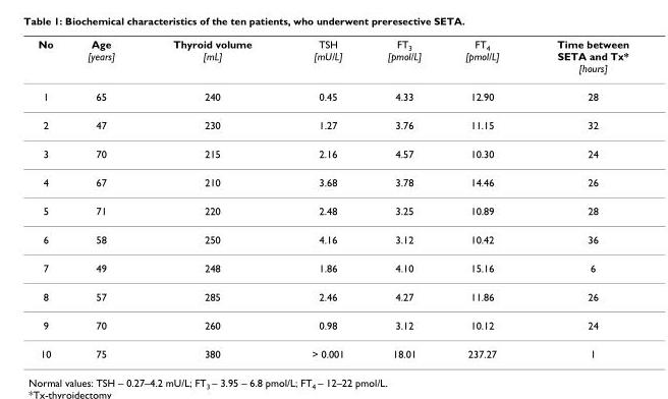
<table><thead><tr><td>No</td><td>Age [years]</td><td>Thyroid volume [mL]</td><td>TSH [mU/L]</td><td>FT<sub>3</sub> [pmol/L]</td><td>FT<sub>4</sub> [pmol/L]</td><td>Time between SETA and Tx* [hours]</td></tr></thead><tbody><tr><td>1</td><td>65</td><td>240</td><td>0.45</td><td>4.33</td><td>12.90</td><td>28</td></tr><tr><td>2</td><td>47</td><td>230</td><td>1.27</td><td>3.76</td><td>11.15</td><td>32</td></tr><tr><td>3</td><td>70</td><td>215</td><td>2.16</td><td>4.57</td><td>10.30</td><td>24</td></tr><tr><td>4</td><td>67</td><td>210</td><td>3.68</td><td>3.78</td><td>14.46</td><td>26</td></tr><tr><td>5</td><td>71</td><td>220</td><td>2.48</td><td>3.25</td><td>10.89</td><td>28</td></tr><tr><td>6</td><td>58</td><td>250</td><td>4.16</td><td>3.12</td><td>10.42</td><td>36</td></tr><tr><td>7</td><td>49</td><td>248</td><td>1.86</td><td>4.10</td><td>15.16</td><td>6</td></tr><tr><td>8</td><td>57</td><td>285</td><td>2.46</td><td>4.27</td><td>11.86</td><td>26</td></tr><tr><td>9</td><td>70</td><td>260</td><td>0.98</td><td>3.12</td><td>10.12</td><td>24</td></tr><tr><td>10</td><td>75</td><td>380</td><td>&gt; 0.001</td><td>18.01</td><td>237.27</td><td>1</td></tr></tbody></table>